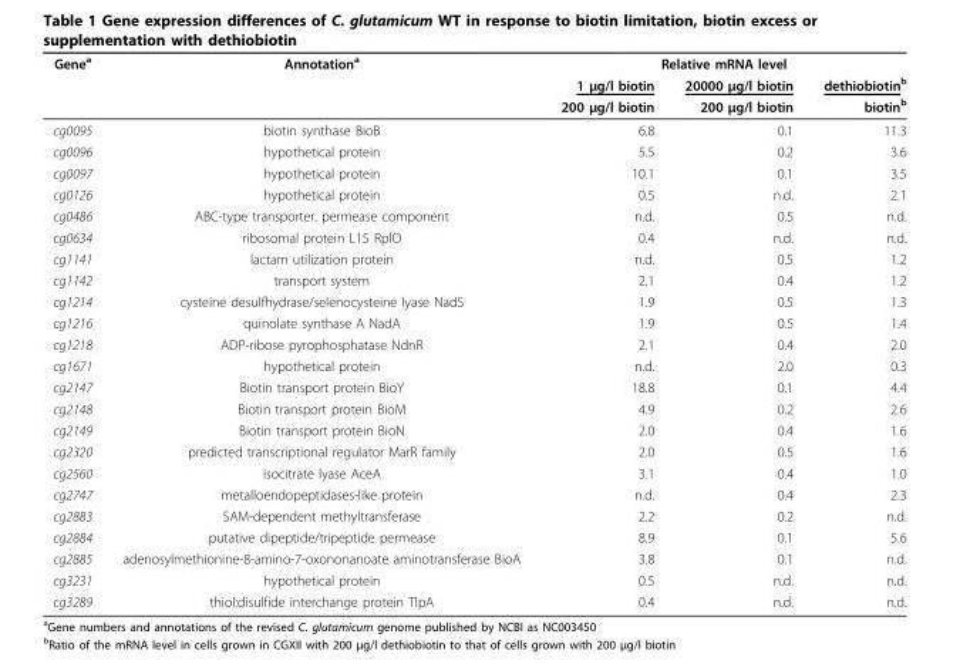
<table><thead><tr><td rowspan="3">Gene<sup>a</sup></td><td rowspan="3">Annotation<sup>a</sup></td><td colspan="3">Relative mRNA level</td></tr><tr><td rowspan="2">1 μg/l biotin 200 μg/l biotin</td><td rowspan="2">20000 μg/l biotin 200 μg/l biotin</td><td rowspan="2">dethiobiotin<sup>b</sup> biotin<sup>b</sup></td></tr><tr></tr></thead><tbody><tr><td>cg0095</td><td>biotin synthase BioB</td><td>6.8</td><td>0.1</td><td>11.3</td></tr><tr><td>cg0096</td><td>hypothetical protein</td><td>5.5</td><td>0.2</td><td>3.6</td></tr><tr><td>cg0097</td><td>hypothetical protein</td><td>10.1</td><td>0.1</td><td>3.5</td></tr><tr><td>cg0126</td><td>hypothetical protein</td><td>0.5</td><td>n.d.</td><td>2.1</td></tr><tr><td>cg0486</td><td>ABC-type transporter. permease component</td><td>n.d.</td><td>0.5</td><td>n.d.</td></tr><tr><td>cg0634</td><td>ribosomal protein L15 RplO</td><td>0.4</td><td>n.d.</td><td>n.d.</td></tr><tr><td>cg1141</td><td>lactam utilization protein</td><td>n.d.</td><td>0.5</td><td>1.2</td></tr><tr><td>cg1142</td><td>transport system</td><td>2.1</td><td>0.4</td><td>1.2</td></tr><tr><td>cg1214</td><td>cysteine desulfhydrase/selenocysteine lyase NadS</td><td>1.9</td><td>0.5</td><td>1.3</td></tr><tr><td>cg1216</td><td>quinolate synthase A NadA</td><td>1.9</td><td>0.5</td><td>1.4</td></tr><tr><td>cg1218</td><td>ADP-ribose pyrophosphatase NdnR</td><td>2.1</td><td>0.4</td><td>2.0</td></tr><tr><td>cg1671</td><td>hypothetical protein</td><td>n.d.</td><td>2.0</td><td>0.3</td></tr><tr><td>cg2147</td><td>Biotin transport protein BioY</td><td>18.8</td><td>0.1</td><td>4.4</td></tr><tr><td>cg2148</td><td>Biotin transport protein BioM</td><td>4.9</td><td>0.2</td><td>2.6</td></tr><tr><td>cg2149</td><td>Biotin transport protein BioN</td><td>2.0</td><td>0.4</td><td>1.6</td></tr><tr><td>cg2320</td><td>predicted transcriptional regulator MarR family</td><td>2.0</td><td>0.5</td><td>1.6</td></tr><tr><td>cg2560</td><td>isocitrate lyase AceA</td><td>3.1</td><td>0.4</td><td>1.0</td></tr><tr><td>cg2747</td><td>metalloendopeptidases-like protein</td><td>n.d.</td><td>0.4</td><td>2.3</td></tr><tr><td>cg2883</td><td>SAM-dependent methyltransferase</td><td>2.2</td><td>0.2</td><td>n.d.</td></tr><tr><td>cg2884</td><td>putative dipeptide/tripeptide permease</td><td>8.9</td><td>0.1</td><td>5.6</td></tr><tr><td>cg2885</td><td>adenosylmethionine-8-amino-7-oxononanoate aminotransferase BioA</td><td>3.8</td><td>0.1</td><td>n.d.</td></tr><tr><td>cg3231</td><td>hypothetical protein</td><td>0.5</td><td>n.d.</td><td>n.d.</td></tr><tr><td>cg3289</td><td>thiol:disulfide interchange protein TlpA</td><td>0.4</td><td>n.d.</td><td>n.d.</td></tr></tbody></table>